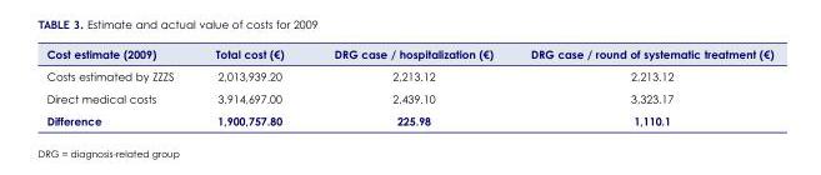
<table><thead><tr><td>Cost estimate (2009)</td><td>Total cost (€)</td><td>DRG case / hospitalization (€)</td><td>DRG case / round of systematic treatment (€)</td></tr></thead><tbody><tr><td>Costs estimated by ZZZS</td><td>2,013,939.20</td><td>2,213.12</td><td>2,213.12</td></tr><tr><td>Direct medical costs</td><td>3,914,697.00</td><td>2,439.10</td><td>3,323.17</td></tr><tr><td>Difference</td><td>1,900,757.80</td><td>225.98</td><td>1,110.1</td></tr></tbody></table>